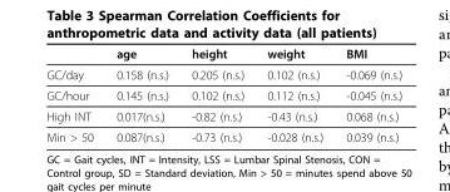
<table><thead><tr><td></td><td>age</td><td>height</td><td>weight</td><td>BMI</td></tr></thead><tbody><tr><td>GC/day</td><td>0.158 (n.s.)</td><td>0.205 (n.s.)</td><td>0.102 (n.s.)</td><td>-0.069 (n.s.)</td></tr><tr><td>GC/hour</td><td>0.145 (n.s.)</td><td>0.102 (n.s.)</td><td>0.112 (n.s.)</td><td>-0.045 (n.s.)</td></tr><tr><td>High INT</td><td>0.017(n.s.)</td><td>-0.82 (n.s.)</td><td>-0.43 (n.s.)</td><td>0.068 (n.s.)</td></tr><tr><td>Min &gt; 50</td><td>0.087(n.s.)</td><td>-0.73 (n.s.)</td><td>-0.028 (n.s.)</td><td>0.039 (n.s.)</td></tr></tbody></table>